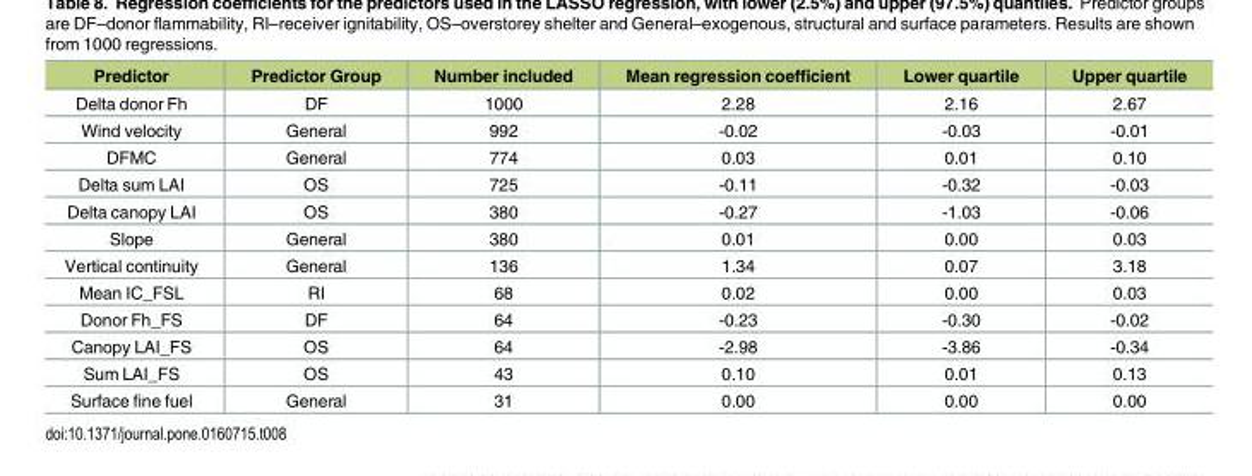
<table><thead><tr><td>Predictor</td><td>Predictor Group</td><td>Number included</td><td>Mean regression coefficient</td><td>Lower quartile</td><td>Upper quartile</td></tr></thead><tbody><tr><td>Delta donor Fh</td><td>DF</td><td>1000</td><td>2.28</td><td>2.16</td><td>2.67</td></tr><tr><td>Wind velocity</td><td>General</td><td>992</td><td>-0.02</td><td>-0.03</td><td>-0.01</td></tr><tr><td>DFMC</td><td>General</td><td>774</td><td>0.03</td><td>0.01</td><td>0.10</td></tr><tr><td>Delta sum LAI</td><td>OS</td><td>725</td><td>-0.11</td><td>-0.32</td><td>-0.03</td></tr><tr><td>Delta canopy LAI</td><td>OS</td><td>380</td><td>-0.27</td><td>-1.03</td><td>-0.06</td></tr><tr><td>Slope</td><td>General</td><td>380</td><td>0.01</td><td>0.00</td><td>0.03</td></tr><tr><td>Vertical continuity</td><td>General</td><td>136</td><td>1.34</td><td>0.07</td><td>3.18</td></tr><tr><td>Mean IC_FSL</td><td>RI</td><td>68</td><td>0.02</td><td>0.00</td><td>0.03</td></tr><tr><td>Donor Fh_FS</td><td>DF</td><td>64</td><td>-0.23</td><td>-0.30</td><td>-0.02</td></tr><tr><td>Canopy LAI_FS</td><td>OS</td><td>64</td><td>-2.98</td><td>-3.86</td><td>-0.34</td></tr><tr><td>Sum LAI_FS</td><td>OS</td><td>43</td><td>0.10</td><td>0.01</td><td>0.13</td></tr><tr><td>Surface fine fuel</td><td>General</td><td>31</td><td>0.00</td><td>0.00</td><td>0.00</td></tr></tbody></table>